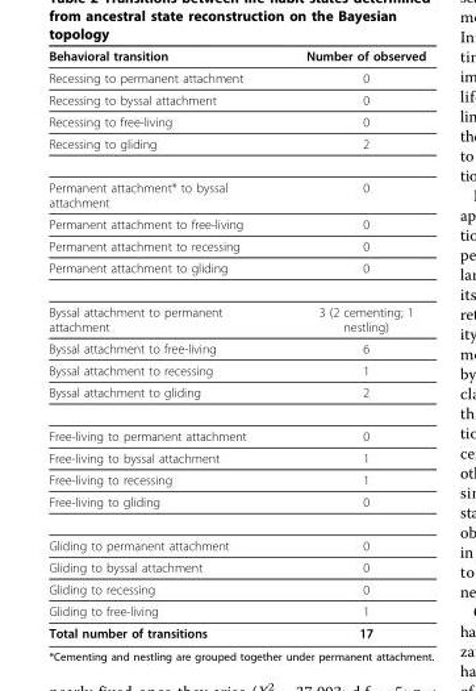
<table><thead><tr><td>Behavioral transition</td><td>Number of observed</td></tr></thead><tbody><tr><td>Recessing to permanent attachment</td><td>0</td></tr><tr><td>Recessing to byssal attachment</td><td>0</td></tr><tr><td>Recessing to free-living</td><td>0</td></tr><tr><td>Recessing to gliding</td><td>2</td></tr><tr><td>Permanent attachment* to byssal attachment</td><td>0</td></tr><tr><td>Permanent attachment to free-living</td><td>0</td></tr><tr><td>Permanent attachment to recessing</td><td>0</td></tr><tr><td>Permanent attachment to gliding</td><td>0</td></tr><tr><td>Byssal attachment to permanent attachment</td><td>3 (2 cementing; 1 nestling)</td></tr><tr><td>Byssal attachment to free-living</td><td>6</td></tr><tr><td>Byssal attachment to recessing</td><td>1</td></tr><tr><td>Byssal attachment to gliding</td><td>2</td></tr><tr><td>Free-living to permanent attachment</td><td>0</td></tr><tr><td>Free-living to byssal attachment</td><td>1</td></tr><tr><td>Free-living to recessing</td><td>1</td></tr><tr><td>Free-living to gliding</td><td>0</td></tr><tr><td>Gliding to permanent attachment</td><td>0</td></tr><tr><td>Gliding to byssal attachment</td><td>0</td></tr><tr><td>Gliding to recessing</td><td>0</td></tr><tr><td>Gliding to free-living</td><td>1</td></tr><tr><td>Total number of transitions</td><td>17</td></tr></tbody></table>